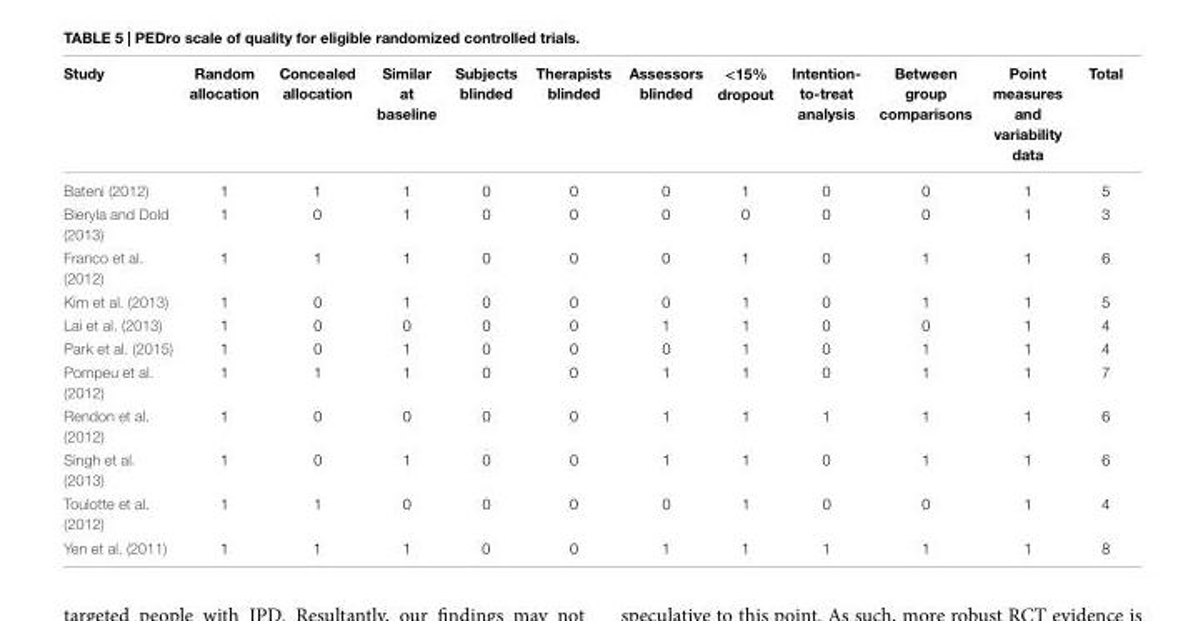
<table><thead><tr><td>Study</td><td>Random allocation</td><td>Concealed allocation</td><td>Similar at baseline</td><td>Subjects blinded</td><td>Therapists blinded</td><td>Assessors blinded</td><td>&lt;15% dropout</td><td>intention- to-treat analysis</td><td>Between group comparisons</td><td>Point measures and variability data</td><td>Total</td></tr></thead><tbody><tr><td>Bateni (2012)</td><td>1</td><td>1</td><td>1</td><td>0</td><td>0</td><td>0</td><td>1</td><td>0</td><td>0</td><td>1</td><td>5</td></tr><tr><td>Bieryla and Dold (2013)</td><td>1</td><td>0</td><td>1</td><td>0</td><td>0</td><td>0</td><td>0</td><td>0</td><td>0</td><td>1</td><td>3</td></tr><tr><td>Franco et al. (2012)</td><td>1</td><td>1</td><td>1</td><td>0</td><td>0</td><td>0</td><td>1</td><td>0</td><td>1</td><td>1</td><td>6</td></tr><tr><td>Kim et al. (2013)</td><td>1</td><td>0</td><td>1</td><td>0</td><td>0</td><td>0</td><td>1</td><td>0</td><td>1</td><td>1</td><td>5</td></tr><tr><td>Lai et al. (2013)</td><td>1</td><td>0</td><td>0</td><td>0</td><td>0</td><td>1</td><td>1</td><td>0</td><td>0</td><td>1</td><td>4</td></tr><tr><td>Park et al. (2015)</td><td>1</td><td>0</td><td>1</td><td>0</td><td>0</td><td>0</td><td>1</td><td>0</td><td>1</td><td>1</td><td>4</td></tr><tr><td>Pompeu et al. (2012)</td><td>1</td><td>1</td><td>1</td><td>0</td><td>0</td><td>1</td><td>1</td><td>0</td><td>1</td><td>1</td><td>7</td></tr><tr><td>Rendon et al. (2012)</td><td>1</td><td>0</td><td>0</td><td>0</td><td>0</td><td>1</td><td>1</td><td>1</td><td>1</td><td>1</td><td>6</td></tr><tr><td>Singh et al. (2013)</td><td>1</td><td>0</td><td>1</td><td>0</td><td>0</td><td>1</td><td>1</td><td>0</td><td>1</td><td>1</td><td>6</td></tr><tr><td>Toulotte et al. (2012)</td><td>1</td><td>1</td><td>0</td><td>0</td><td>0</td><td>0</td><td>1</td><td>0</td><td>0</td><td>1</td><td>4</td></tr><tr><td>Yen et al. (2011)</td><td>1</td><td>1</td><td>1</td><td>0</td><td>0</td><td>1</td><td>1</td><td>1</td><td>1</td><td>1</td><td>8</td></tr></tbody></table>